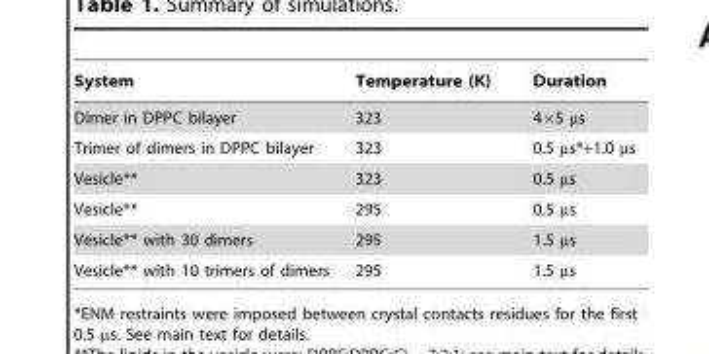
<table><thead><tr><td>System</td><td>Temperature (K)</td><td>Duration</td></tr></thead><tbody><tr><td>Dimer in DPPC bilayer</td><td>323</td><td>4×5 µs</td></tr><tr><td>Trimer of dimers in DPPC bilayer</td><td>323</td><td>0.5 µs*+1.0 µs</td></tr><tr><td>Vesicle**</td><td>323</td><td>0.5 µs</td></tr><tr><td>Vesicle**</td><td>295</td><td>0.5 µs</td></tr><tr><td>Vesicle** with 30 dimers</td><td>295</td><td>1.5 µs</td></tr><tr><td>Vesicle** with 10 trimers of dimers</td><td>295</td><td>1.5 µs</td></tr></tbody></table>